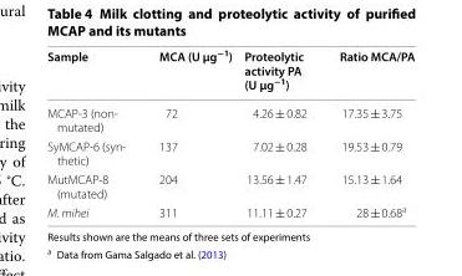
<table><thead><tr><td>Sample</td><td>MCA (U µg<sup>−1</sup>)</td><td>Proteolytic activity PA (U µg<sup>−1</sup>)</td><td>Ratio MCA/PA</td></tr></thead><tbody><tr><td>MCAP‑3 (non‑ mutated)</td><td>72</td><td>4.26 ± 0.82</td><td>17.35 ± 3.75</td></tr><tr><td>SyMCAP‑6 (syn‑ thetic)</td><td>137</td><td>7.02 ± 0.28</td><td>19.53 ± 0.79</td></tr><tr><td>MutMCAP‑8 (mutated)</td><td>204</td><td>13.56 ± 1.47</td><td>15.13 ± 1.64</td></tr><tr><td>M. mihei</td><td>311</td><td>11.11 ± 0.27</td><td>28 ± 0.68<sup>a</sup></td></tr></tbody></table>